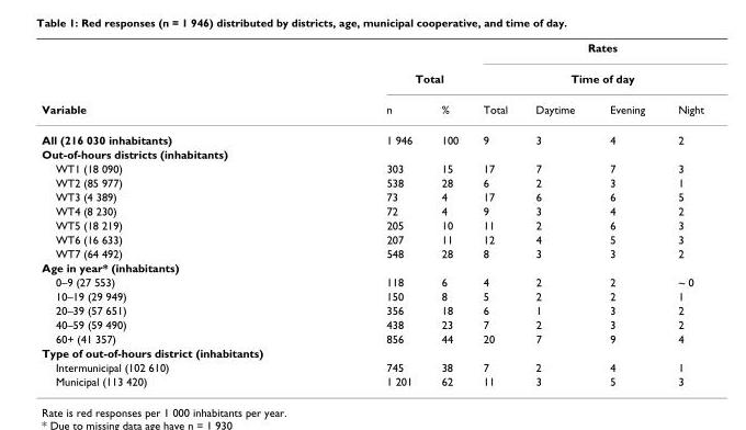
<table><thead><tr><td rowspan="3">Variable</td><td></td><td></td><td rowspan="2" colspan="4">Rates Time of day</td></tr><tr><td colspan="2">Total</td></tr><tr><td>n</td><td>%</td><td>Total</td><td>Daytime</td><td>Evening</td><td>Night</td></tr></thead><tbody><tr><td>All (216 030 inhabitants)</td><td>1 946</td><td>100</td><td>9</td><td>3</td><td>4</td><td>2</td></tr><tr><td colspan="7">Out-of-hours districts (inhabitants)</td></tr><tr><td>WT1 (18 090)</td><td>303</td><td>15</td><td>17</td><td>7</td><td>7</td><td>3</td></tr><tr><td>WT2 (85 977)</td><td>538</td><td>28</td><td>6</td><td>2</td><td>3</td><td>1</td></tr><tr><td>WT3 (4 389)</td><td>73</td><td>4</td><td>17</td><td>6</td><td>6</td><td>5</td></tr><tr><td>WT4 (8 230)</td><td>72</td><td>4</td><td>9</td><td>3</td><td>4</td><td>2</td></tr><tr><td>WT5 (18 219)</td><td>205</td><td>10</td><td>11</td><td>2</td><td>6</td><td>3</td></tr><tr><td>WT6 (16 633)</td><td>207</td><td>11</td><td>12</td><td>4</td><td>5</td><td>3</td></tr><tr><td>WT7 (64 492)</td><td>548</td><td>28</td><td>8</td><td>3</td><td>3</td><td>2</td></tr><tr><td colspan="7">Age in year* (inhabitants)</td></tr><tr><td>0–9 (27 553)</td><td>118</td><td>6</td><td>4</td><td>2</td><td>2</td><td>~ 0</td></tr><tr><td>10–19 (29 949)</td><td>150</td><td>8</td><td>5</td><td>2</td><td>2</td><td>1</td></tr><tr><td>20–39 (57 651)</td><td>356</td><td>18</td><td>6</td><td>1</td><td>3</td><td>2</td></tr><tr><td>40–59 (59 490)</td><td>438</td><td>23</td><td>7</td><td>2</td><td>3</td><td>2</td></tr><tr><td>60+ (41 357)</td><td>856</td><td>44</td><td>20</td><td>7</td><td>9</td><td>4</td></tr><tr><td colspan="7">Type of out-of-hours district (inhabitants)</td></tr><tr><td>Intermunicipal (102 610)</td><td>745</td><td>38</td><td>7</td><td>2</td><td>4</td><td>1</td></tr><tr><td>Municipal (113 420)</td><td>1 201</td><td>62</td><td>11</td><td>3</td><td>5</td><td>3</td></tr></tbody></table>